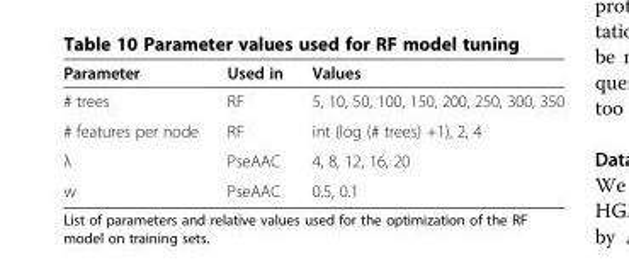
<table><thead><tr><td>Parameter</td><td>Used in</td><td>Values</td></tr></thead><tbody><tr><td># trees</td><td>RF</td><td>5, 10, 50, 100, 150, 200, 250, 300, 350</td></tr><tr><td># features per node</td><td>RF</td><td>int (log (# trees) +1), 2, 4</td></tr><tr><td>λ</td><td>PseAAC</td><td>4, 8, 12, 16, 20</td></tr><tr><td>w</td><td>PseAAC</td><td>0.5, 0.1</td></tr></tbody></table>